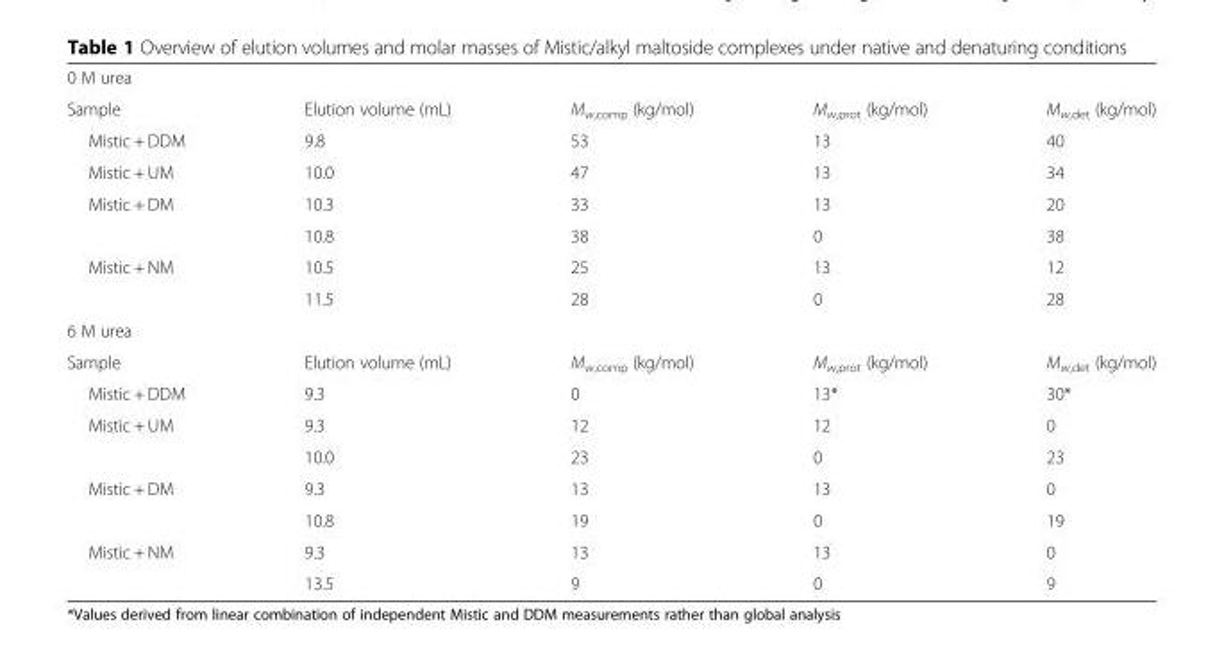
<table><tbody><tr><td colspan="5">0 M urea</td></tr><tr><td>Sample</td><td>Elution volume (mL)</td><td>M<sub>w,comp</sub> (kg/mol)</td><td>M<sub>w,prot</sub> (kg/mol)</td><td>M<sub>w,det</sub> (kg/mol)</td></tr><tr><td>Mistic + DDM</td><td>9.8</td><td>53</td><td>13</td><td>40</td></tr><tr><td>Mistic + UM</td><td>10.0</td><td>47</td><td>13</td><td>34</td></tr><tr><td rowspan="2">Mistic + DM</td><td>10.3</td><td>33</td><td>13</td><td>20</td></tr><tr><td>10.8</td><td>38</td><td>0</td><td>38</td></tr><tr><td rowspan="2">Mistic + NM</td><td>10.5</td><td>25</td><td>13</td><td>12</td></tr><tr><td>11.5</td><td>28</td><td>0</td><td>28</td></tr><tr><td colspan="5">6 M urea</td></tr><tr><td>Sample</td><td>Elution volume (mL)</td><td>M<sub>w,comp</sub> (kg/mol)</td><td>M<sub>w,prot</sub> (kg/mol)</td><td>M<sub>w,det</sub> (kg/mol)</td></tr><tr><td>Mistic + DDM</td><td>9.3</td><td>0</td><td>13*</td><td>30*</td></tr><tr><td rowspan="2">Mistic + UM</td><td>9.3</td><td>12</td><td>12</td><td>0</td></tr><tr><td>10.0</td><td>23</td><td>0</td><td>23</td></tr><tr><td rowspan="2">Mistic + DM</td><td>9.3</td><td>13</td><td>13</td><td>0</td></tr><tr><td>10.8</td><td>19</td><td>0</td><td>19</td></tr><tr><td rowspan="2">Mistic + NM</td><td>9.3</td><td>13</td><td>13</td><td>0</td></tr><tr><td>13.5</td><td>9</td><td>0</td><td>9</td></tr></tbody></table>